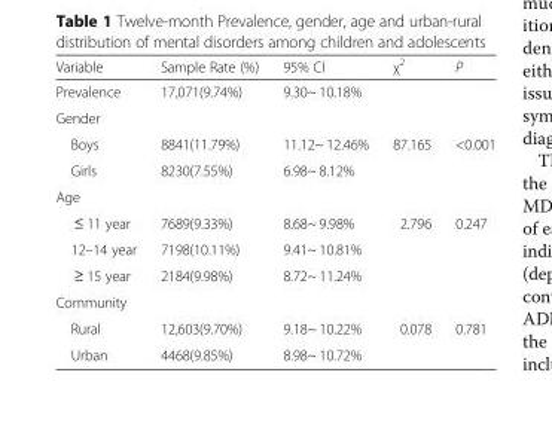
<table><thead><tr><td>Variable</td><td>Sample Rate (%)</td><td>95% CI</td><td>χ<sup>2</sup></td><td>P</td></tr></thead><tbody><tr><td>Prevalence</td><td>17,071(9.74%)</td><td>9.30~ 10.18%</td><td></td><td></td></tr><tr><td colspan="5">Gender</td></tr><tr><td>Boys</td><td>8841(11.79%)</td><td>11.12~ 12.46%</td><td>87.165</td><td>&lt;0.001</td></tr><tr><td>Girls</td><td>8230(7.55%)</td><td>6.98~ 8.12%</td><td></td><td></td></tr><tr><td colspan="5">Age</td></tr><tr><td>≤ 11 year</td><td>7689(9.33%)</td><td>8.68~ 9.98%</td><td>2.796</td><td>0.247</td></tr><tr><td>12–14 year</td><td>7198(10.11%)</td><td>9.41~ 10.81%</td><td></td><td></td></tr><tr><td>≥ 15 year</td><td>2184(9.98%)</td><td>8.72~ 11.24%</td><td></td><td></td></tr><tr><td colspan="5">Community</td></tr><tr><td>Rural</td><td>12,603(9.70%)</td><td>9.18~ 10.22%</td><td>0.078</td><td>0.781</td></tr><tr><td>Urban</td><td>4468(9.85%)</td><td>8.98~ 10.72%</td><td></td><td></td></tr></tbody></table>